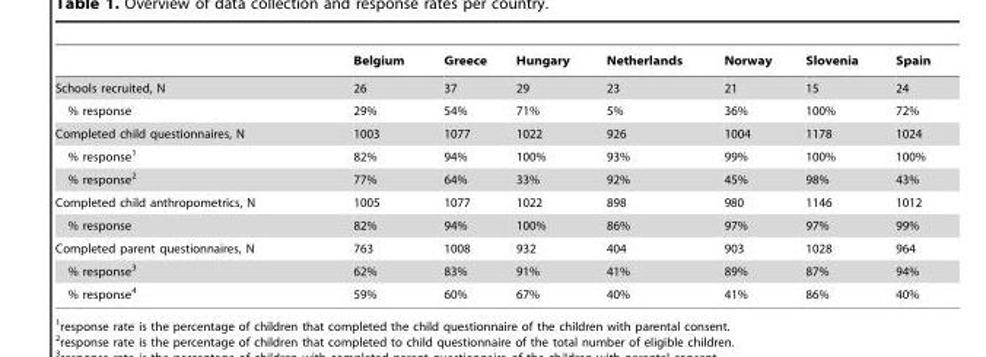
<table><thead><tr><td></td><td>Belgium</td><td>Greece</td><td>Hungary</td><td>Netherlands</td><td>Norway</td><td>Slovenia</td><td>Spain</td></tr></thead><tbody><tr><td>Schools recruited, N</td><td>26</td><td>37</td><td>29</td><td>23</td><td>21</td><td>15</td><td>24</td></tr><tr><td>% response</td><td>29%</td><td>54%</td><td>71%</td><td>5%</td><td>36%</td><td>100%</td><td>72%</td></tr><tr><td>Completed child questionnaires, N</td><td>1003</td><td>1077</td><td>1022</td><td>926</td><td>1004</td><td>1178</td><td>1024</td></tr><tr><td>% response<sup>1</sup></td><td>82%</td><td>94%</td><td>100%</td><td>93%</td><td>99%</td><td>100%</td><td>100%</td></tr><tr><td>% response<sup>2</sup></td><td>77%</td><td>64%</td><td>33%</td><td>92%</td><td>45%</td><td>98%</td><td>43%</td></tr><tr><td>Completed child anthropometrics, N</td><td>1005</td><td>1077</td><td>1022</td><td>898</td><td>980</td><td>1146</td><td>1012</td></tr><tr><td>% response</td><td>82%</td><td>94%</td><td>100%</td><td>86%</td><td>97%</td><td>97%</td><td>99%</td></tr><tr><td>Completed parent questionnaires, N</td><td>763</td><td>1008</td><td>932</td><td>404</td><td>903</td><td>1028</td><td>964</td></tr><tr><td>% response<sup>3</sup></td><td>62%</td><td>83%</td><td>91%</td><td>41%</td><td>89%</td><td>87%</td><td>94%</td></tr><tr><td>% response<sup>4</sup></td><td>59%</td><td>60%</td><td>67%</td><td>40%</td><td>41%</td><td>86%</td><td>40%</td></tr></tbody></table>